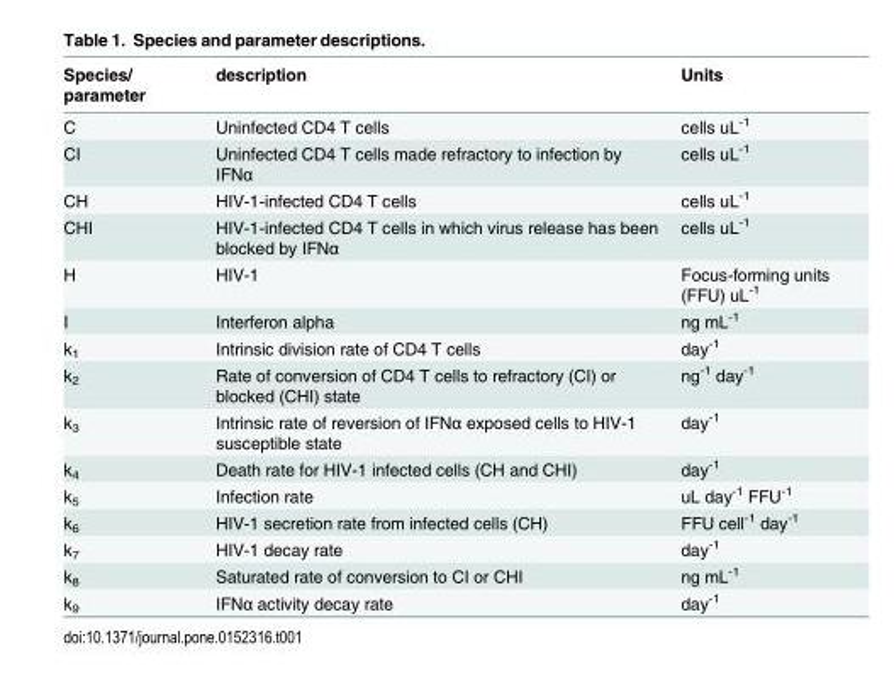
<table><thead><tr><td>Species/ parameter</td><td>description</td><td>Units</td></tr></thead><tbody><tr><td>C</td><td>Uninfected CD4 T cells</td><td>cells uL<sup>-1</sup></td></tr><tr><td>CI</td><td>Uninfected CD4 T cells made refractory to infection by IFNα</td><td>cells uL<sup>-1</sup></td></tr><tr><td>CH</td><td>HIV-1-infected CD4 T cells</td><td>cells uL<sup>-1</sup></td></tr><tr><td>CHI</td><td>HIV-1-infected CD4 T cells in which virus release has been blocked by IFNα</td><td>cells uL<sup>-1</sup></td></tr><tr><td>H</td><td>HIV-1</td><td>Focus-forming units (FFU) uL<sup>-1</sup></td></tr><tr><td>I</td><td>Interferon alpha</td><td>ng mL<sup>-1</sup></td></tr><tr><td>k<sub>1</sub></td><td>Intrinsic division rate of CD4 T cells</td><td>day<sup>-1</sup></td></tr><tr><td>k<sub>2</sub></td><td>Rate of conversion of CD4 T cells to refractory (CI) or blocked (CHI) state</td><td>ng<sup>-1</sup> day<sup>-1</sup></td></tr><tr><td>k<sub>3</sub></td><td>Intrinsic rate of reversion of IFNα exposed cells to HIV-1 susceptible state</td><td>day<sup>-1</sup></td></tr><tr><td>k<sub>4</sub></td><td>Death rate for HIV-1 infected cells (CH and CHI)</td><td>day<sup>-1</sup></td></tr><tr><td>k<sub>5</sub></td><td>Infection rate</td><td>uL day<sup>-1</sup> FFU<sup>-1</sup></td></tr><tr><td>k<sub>6</sub></td><td>HIV-1 secretion rate from infected cells (CH)</td><td>FFU cell<sup>-1</sup> day<sup>-1</sup></td></tr><tr><td>k<sub>7</sub></td><td>HIV-1 decay rate</td><td>day<sup>-1</sup></td></tr><tr><td>k<sub>8</sub></td><td>Saturated rate of conversion to CI or CHI</td><td>ng mL<sup>-1</sup></td></tr><tr><td>k<sub>9</sub></td><td>IFNα activity decay rate</td><td>day<sup>-1</sup></td></tr></tbody></table>